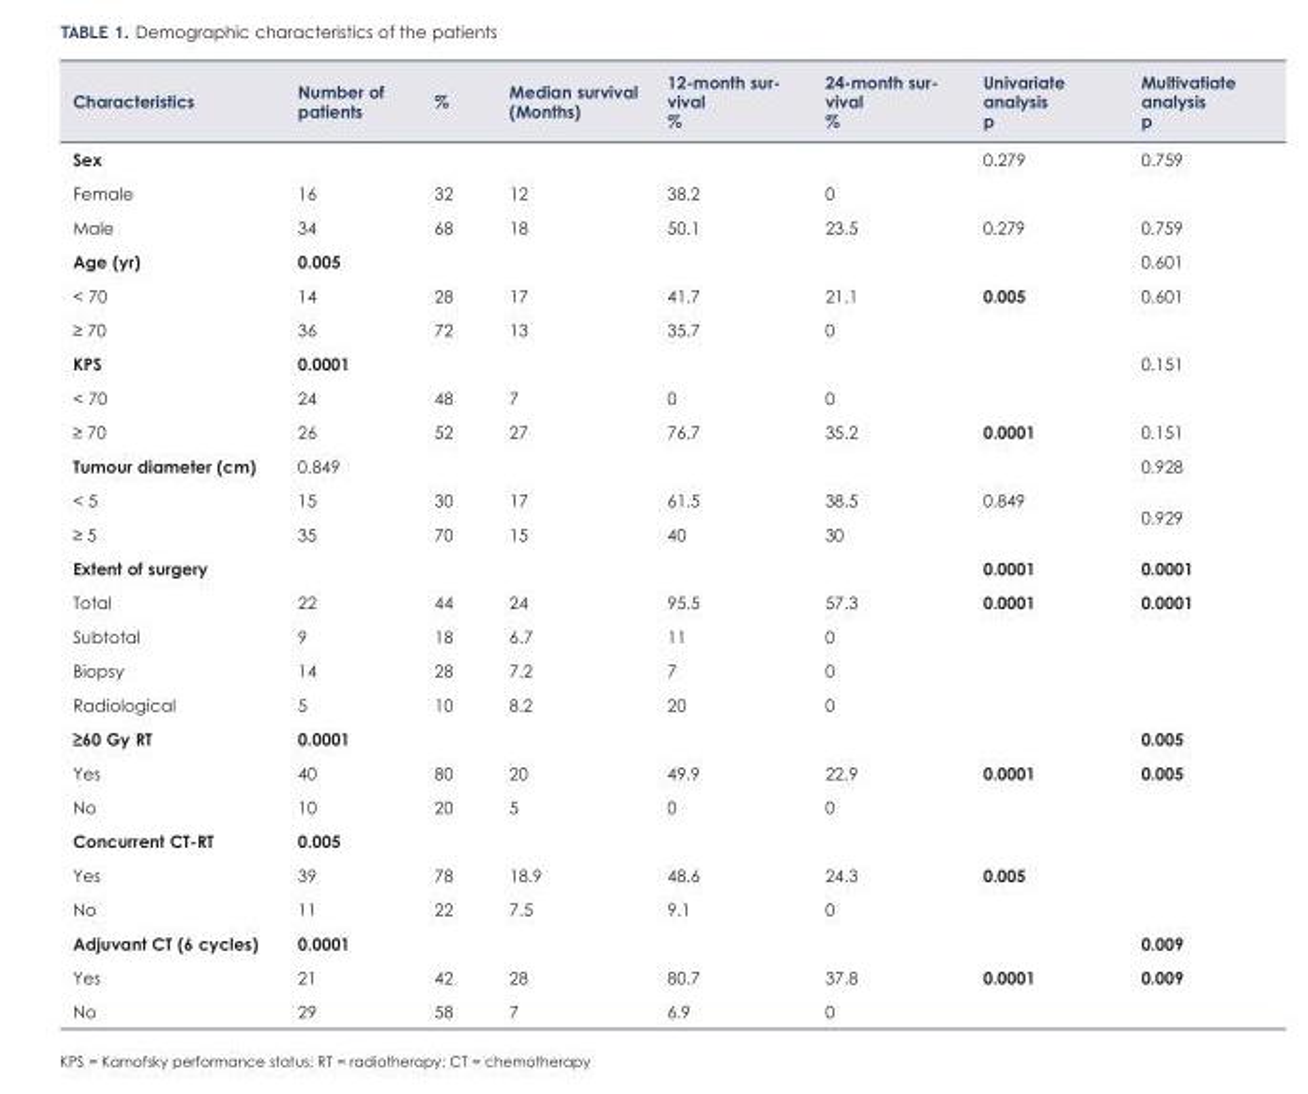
<table><thead><tr><td>Characteristics</td><td>Number of patients</td><td>%</td><td>Median survival (Months)</td><td>12-month sur- vival %</td><td>24-month sur- vival %</td><td>Univariate analysis p</td><td>Multivatiate analysis p</td></tr></thead><tbody><tr><td>Sex</td><td></td><td></td><td></td><td></td><td></td><td>0.279</td><td>0.759</td></tr><tr><td>Female</td><td>16</td><td>32</td><td>12</td><td>38.2</td><td>0</td><td></td><td></td></tr><tr><td>Male</td><td>34</td><td>68</td><td>18</td><td>50.1</td><td>23.5</td><td>0.279</td><td>0.759</td></tr><tr><td>Age (yr)</td><td>0.005</td><td></td><td></td><td></td><td></td><td></td><td>0.601</td></tr><tr><td>&lt; 70</td><td>14</td><td>28</td><td>17</td><td>41.7</td><td>21.1</td><td>0.005</td><td>0.601</td></tr><tr><td>≥ 70</td><td>36</td><td>72</td><td>13</td><td>35.7</td><td>0</td><td></td><td></td></tr><tr><td>KPS</td><td>0.0001</td><td></td><td></td><td></td><td></td><td></td><td>0.151</td></tr><tr><td>&lt; 70</td><td>24</td><td>48</td><td>7</td><td>0</td><td>0</td><td></td><td></td></tr><tr><td>≥ 70</td><td>26</td><td>52</td><td>27</td><td>76.7</td><td>35.2</td><td>0.0001</td><td>0.151</td></tr><tr><td>Tumour diameter (cm)</td><td>0.849</td><td></td><td></td><td></td><td></td><td></td><td>0.928</td></tr><tr><td>&lt; 5</td><td>15</td><td>30</td><td>17</td><td>61.5</td><td>38.5</td><td>0.849</td><td rowspan="2">0.929</td></tr><tr><td>≥ 5</td><td>35</td><td>70</td><td>15</td><td>40</td><td>30</td><td></td></tr><tr><td>Extent of surgery</td><td></td><td></td><td></td><td></td><td></td><td>0.0001</td><td>0.0001</td></tr><tr><td>Total</td><td>22</td><td>44</td><td>24</td><td>95.5</td><td>57.3</td><td>0.0001</td><td>0.0001</td></tr><tr><td>Subtotal</td><td>9</td><td>18</td><td>6.7</td><td>11</td><td>0</td><td></td><td></td></tr><tr><td>Biopsy</td><td>14</td><td>28</td><td>7.2</td><td>7</td><td>0</td><td></td><td></td></tr><tr><td>Radiological</td><td>5</td><td>10</td><td>8.2</td><td>20</td><td>0</td><td></td><td></td></tr><tr><td>≥60 Gy RT</td><td>0.0001</td><td></td><td></td><td></td><td></td><td></td><td>0.005</td></tr><tr><td>Yes</td><td>40</td><td>80</td><td>20</td><td>49.9</td><td>22.9</td><td>0.0001</td><td>0.005</td></tr><tr><td>No</td><td>10</td><td>20</td><td>5</td><td>0</td><td>0</td><td></td><td></td></tr><tr><td>Concurrent CT-RT</td><td>0.005</td><td></td><td></td><td></td><td></td><td></td><td></td></tr><tr><td>Yes</td><td>39</td><td>78</td><td>18.9</td><td>48.6</td><td>24.3</td><td>0.005</td><td></td></tr><tr><td>No</td><td>11</td><td>22</td><td>7.5</td><td>9.1</td><td>0</td><td></td><td></td></tr><tr><td>Adjuvant CT (6 cycles)</td><td>0.0001</td><td></td><td></td><td></td><td></td><td></td><td>0.009</td></tr><tr><td>Yes</td><td>21</td><td>42</td><td>28</td><td>80.7</td><td>37.8</td><td>0.0001</td><td>0.009</td></tr><tr><td>No</td><td>29</td><td>58</td><td>7</td><td>6.9</td><td>0</td><td></td><td></td></tr></tbody></table>